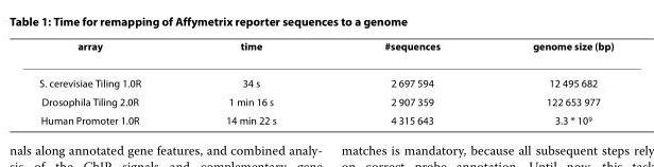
<table><thead><tr><td>array</td><td>time</td><td>#sequences</td><td>genome size (bp)</td></tr></thead><tbody><tr><td>S. cerevisiae Tiling 1.0R</td><td>34 s</td><td>2 697 594</td><td>12 495 682</td></tr><tr><td>Drosophila Tiling 2.0R</td><td>1 min 16 s</td><td>2 907 359</td><td>122 653 977</td></tr><tr><td>Human Promoter 1.0R</td><td>14 min 22 s</td><td>4 315 643</td><td>3.3 * 10<sup>9</sup></td></tr></tbody></table>